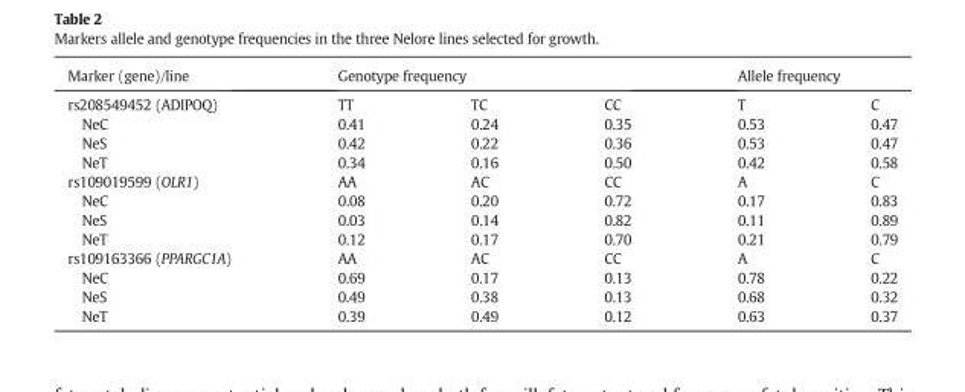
<table><thead><tr><td rowspan="2">Marker (gene)/line rs208549452 (ADIPOQ)</td><td colspan="3">Genotype frequency</td><td colspan="2">Allele frequency</td></tr><tr><td>TT</td><td>TC</td><td>CC</td><td>T</td><td>C</td></tr></thead><tbody><tr><td>NeC</td><td>0.41</td><td>0.24</td><td>0.35</td><td>0.53</td><td>0.47</td></tr><tr><td>NeS</td><td>0.42</td><td>0.22</td><td>0.36</td><td>0.53</td><td>0.47</td></tr><tr><td>NeT</td><td>0.34</td><td>0.16</td><td>0.50</td><td>0.42</td><td>0.58</td></tr><tr><td>rs109019599 (OLR1)</td><td>AA</td><td>AC</td><td>CC</td><td>A</td><td>C</td></tr><tr><td>NeC</td><td>0.08</td><td>0.20</td><td>0.72</td><td>0.17</td><td>0.83</td></tr><tr><td>NeS</td><td>0.03</td><td>0.14</td><td>0.82</td><td>0.11</td><td>0.89</td></tr><tr><td>NeT</td><td>0.12</td><td>0.17</td><td>0.70</td><td>0.21</td><td>0.79</td></tr><tr><td>rs109163366 (PPARGC1A)</td><td>AA</td><td>AC</td><td>CC</td><td>A</td><td>C</td></tr><tr><td>NeC</td><td>0.69</td><td>0.17</td><td>0.13</td><td>0.78</td><td>0.22</td></tr><tr><td>NeS</td><td>0.49</td><td>0.38</td><td>0.13</td><td>0.68</td><td>0.32</td></tr><tr><td>NeT</td><td>0.39</td><td>0.49</td><td>0.12</td><td>0.63</td><td>0.37</td></tr></tbody></table>